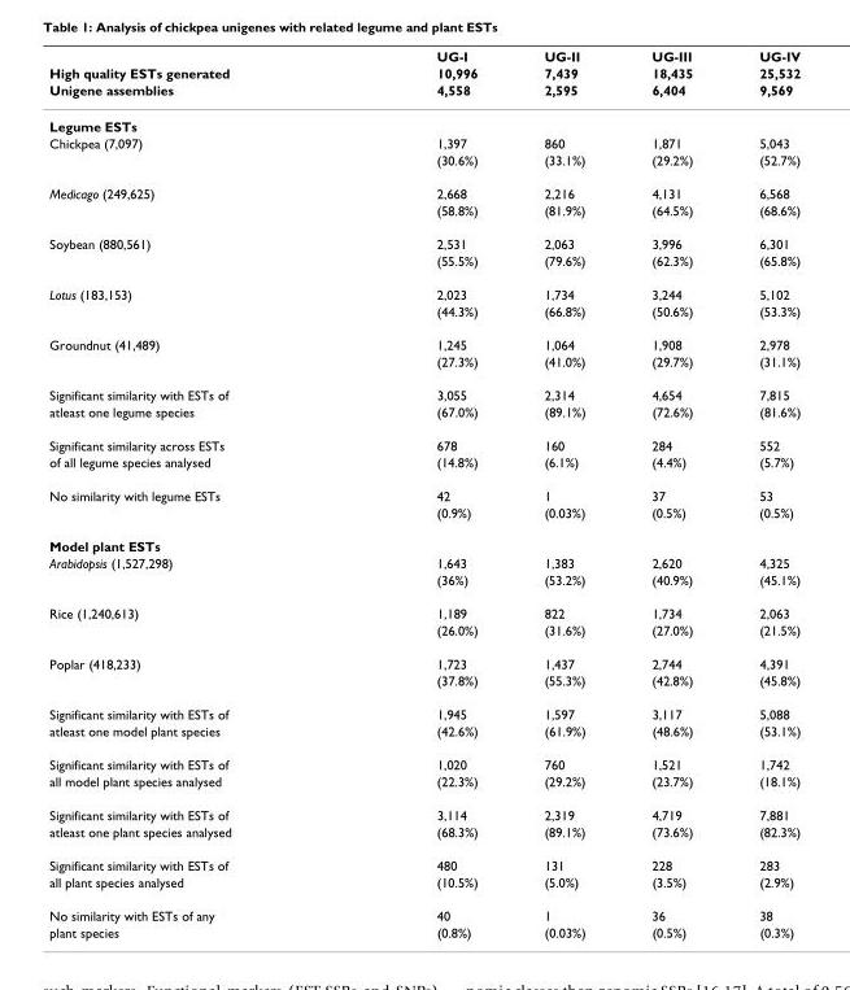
<table><thead><tr><td rowspan="3">High quality ESTs generated Unigene assemblies</td><td rowspan="3">UG-I 10,996 4,558</td><td rowspan="3">UG-II 7,439 2,595</td><td rowspan="3">UG-III 18,435 6,404</td><td rowspan="3">UG-IV 25,532 9,569</td></tr><tr></tr><tr></tr></thead><tbody><tr><td colspan="5">Legume ESTs</td></tr><tr><td rowspan="2">Chickpea (7,097)</td><td>1,397</td><td>860</td><td>1,871</td><td>5,043</td></tr><tr><td>(30.6%)</td><td>(33.1%)</td><td>(29.2%)</td><td>(52.7%)</td></tr><tr><td rowspan="2">Medicago (249,625)</td><td>2,668</td><td>2,216</td><td>4,131</td><td>6,568</td></tr><tr><td>(58.8%)</td><td>(81.9%)</td><td>(64.5%)</td><td>(68.6%)</td></tr><tr><td rowspan="2">Soybean (880,561)</td><td>2,531</td><td>2,063</td><td>3,996</td><td>6,301</td></tr><tr><td>(55.5%)</td><td>(79.6%)</td><td>(62.3%)</td><td>(65.8%)</td></tr><tr><td rowspan="2">Lotus (183,153)</td><td>2,023</td><td>1,734</td><td>3,244</td><td>5,102</td></tr><tr><td>(44.3%)</td><td>(66.8%)</td><td>(50.6%)</td><td>(53.3%)</td></tr><tr><td rowspan="2">Groundnut (41,489)</td><td>1,245</td><td>1,064</td><td>1,908</td><td>2,978</td></tr><tr><td>(27.3%)</td><td>(41.0%)</td><td>(29.7%)</td><td>(31.1%)</td></tr><tr><td>Significant similarity with ESTs of</td><td>3,055</td><td>2,314</td><td>4,654</td><td>7,815</td></tr><tr><td>atleast one legume species</td><td>(67.0%)</td><td>(89.1%)</td><td>(72.6%)</td><td>(81.6%)</td></tr><tr><td>Significant similarity across ESTs</td><td>678</td><td>160</td><td>284</td><td>552</td></tr><tr><td>of all legume species analysed</td><td>(14.8%)</td><td>(6.1%)</td><td>(4.4%)</td><td>(5.7%)</td></tr><tr><td rowspan="2">No similarity with legume ESTs</td><td>42</td><td>1</td><td>37</td><td>53</td></tr><tr><td>(0.9%)</td><td>(0.03%)</td><td>(0.5%)</td><td>(0.5%)</td></tr><tr><td colspan="5">Model plant ESTs</td></tr><tr><td rowspan="2">Arabidopsis (1,527,298)</td><td>1,643</td><td>1,383</td><td>2,620</td><td>4,325</td></tr><tr><td>(36%)</td><td>(53.2%)</td><td>(40.9%)</td><td>(45.1%)</td></tr><tr><td rowspan="2">Rice (1,240,613)</td><td>1,189</td><td>822</td><td>1,734</td><td>2,063</td></tr><tr><td>(26.0%)</td><td>(31.6%)</td><td>(27.0%)</td><td>(21.5%)</td></tr><tr><td rowspan="2">Poplar (418,233)</td><td>1,723</td><td>1,437</td><td>2,744</td><td>4,391</td></tr><tr><td>(37.8%)</td><td>(55.3%)</td><td>(42.8%)</td><td>(45.8%)</td></tr><tr><td>Significant similarity with ESTs of</td><td>1,945</td><td>1,597</td><td>3,117</td><td>5,088</td></tr><tr><td>atleast one model plant species</td><td>(42.6%)</td><td>(61.9%)</td><td>(48.6%)</td><td>(53.1%)</td></tr><tr><td>Significant similarity with ESTs of</td><td>1,020</td><td>760</td><td>1,521</td><td>1,742</td></tr><tr><td>all model plant species analysed</td><td>(22.3%)</td><td>(29.2%)</td><td>(23.7%)</td><td>(18.1%)</td></tr><tr><td>Significant similarity with ESTs of</td><td>3,114</td><td>2,319</td><td>4,719</td><td>7,881</td></tr><tr><td>atleast one plant species analysed</td><td>(68.3%)</td><td>(89.1%)</td><td>(73.6%)</td><td>(82.3%)</td></tr><tr><td>Significant similarity with ESTs of</td><td>480</td><td>131</td><td>228</td><td>283</td></tr><tr><td>all plant species analysed</td><td>(10.5%)</td><td>(5.0%)</td><td>(3.5%)</td><td>(2.9%)</td></tr><tr><td>No similarity with ESTs of any</td><td>40</td><td>1</td><td>36</td><td>38</td></tr><tr><td>plant species</td><td>(0.8%)</td><td>(0.03%)</td><td>(0.5%)</td><td>(0.3%)</td></tr></tbody></table>